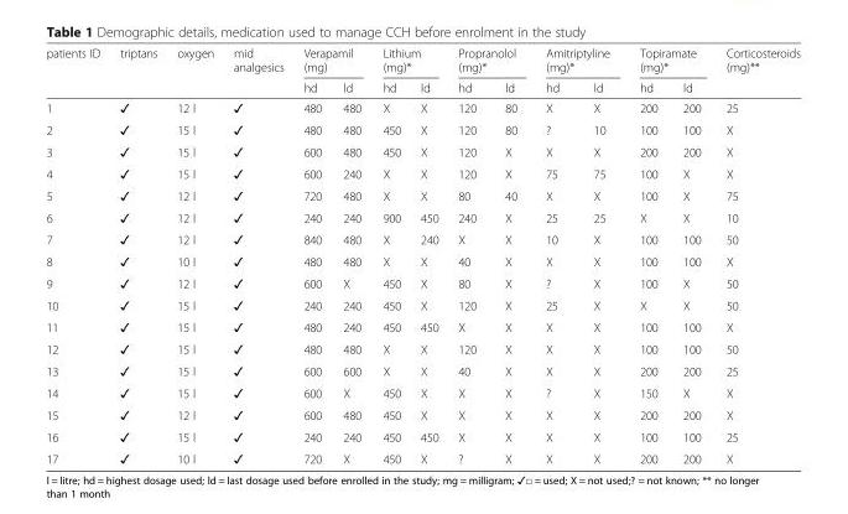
<table><thead><tr><td rowspan="2">patients ID</td><td rowspan="2">triptans</td><td rowspan="2">oxygen</td><td rowspan="2">mid analgesics</td><td colspan="2">Verapamil (mg)</td><td colspan="2">Lithium (mg)*</td><td colspan="2">Propranolol (mg)*</td><td colspan="2">Amitriptyline (mg)*</td><td colspan="2">Topiramate (mg)*</td><td rowspan="2">Corticosteroids (mg)**</td></tr><tr><td>hd</td><td>ld</td><td>hd</td><td>ld</td><td>hd</td><td>ld</td><td>hd</td><td>ld</td><td>hd</td><td>ld</td></tr></thead><tbody><tr><td>1</td><td>✓</td><td>12 l</td><td>✓</td><td>480</td><td>480</td><td>X</td><td>X</td><td>120</td><td>80</td><td>X</td><td>X</td><td>200</td><td>200</td><td>25</td></tr><tr><td>2</td><td>✓</td><td>15 l</td><td>✓</td><td>480</td><td>480</td><td>450</td><td>X</td><td>120</td><td>80</td><td>?</td><td>10</td><td>100</td><td>100</td><td>X</td></tr><tr><td>3</td><td>✓</td><td>15 l</td><td>✓</td><td>600</td><td>480</td><td>450</td><td>X</td><td>120</td><td>X</td><td>X</td><td>X</td><td>200</td><td>200</td><td>X</td></tr><tr><td>4</td><td>✓</td><td>15 l</td><td>✓</td><td>600</td><td>240</td><td>X</td><td>X</td><td>120</td><td>X</td><td>75</td><td>75</td><td>100</td><td>X</td><td>X</td></tr><tr><td>5</td><td>✓</td><td>12 l</td><td>✓</td><td>720</td><td>480</td><td>X</td><td>X</td><td>80</td><td>40</td><td>X</td><td>X</td><td>100</td><td>X</td><td>75</td></tr><tr><td>6</td><td>✓</td><td>12 l</td><td>✓</td><td>240</td><td>240</td><td>900</td><td>450</td><td>240</td><td>X</td><td>25</td><td>25</td><td>X</td><td>X</td><td>10</td></tr><tr><td>7</td><td>✓</td><td>12 l</td><td>✓</td><td>840</td><td>480</td><td>X</td><td>240</td><td>X</td><td>X</td><td>10</td><td>X</td><td>100</td><td>100</td><td>50</td></tr><tr><td>8</td><td>✓</td><td>10 l</td><td>✓</td><td>480</td><td>480</td><td>X</td><td>X</td><td>40</td><td>X</td><td>X</td><td>X</td><td>100</td><td>100</td><td>X</td></tr><tr><td>9</td><td>✓</td><td>12 l</td><td>✓</td><td>600</td><td>X</td><td>450</td><td>X</td><td>80</td><td>X</td><td>?</td><td>X</td><td>100</td><td>X</td><td>50</td></tr><tr><td>10</td><td>✓</td><td>15 l</td><td>✓</td><td>240</td><td>240</td><td>450</td><td>X</td><td>120</td><td>X</td><td>25</td><td>X</td><td>X</td><td>X</td><td>50</td></tr><tr><td>11</td><td>✓</td><td>15 l</td><td>✓</td><td>480</td><td>240</td><td>450</td><td>450</td><td>X</td><td>X</td><td>X</td><td>X</td><td>100</td><td>100</td><td>X</td></tr><tr><td>12</td><td>✓</td><td>15 l</td><td>✓</td><td>480</td><td>480</td><td>X</td><td>X</td><td>120</td><td>X</td><td>X</td><td>X</td><td>100</td><td>100</td><td>50</td></tr><tr><td>13</td><td>✓</td><td>15 l</td><td>✓</td><td>600</td><td>600</td><td>X</td><td>X</td><td>40</td><td>X</td><td>X</td><td>X</td><td>200</td><td>200</td><td>25</td></tr><tr><td>14</td><td>✓</td><td>15 l</td><td>✓</td><td>600</td><td>X</td><td>450</td><td>X</td><td>X</td><td>X</td><td>?</td><td>X</td><td>150</td><td>X</td><td>X</td></tr><tr><td>15</td><td>✓</td><td>12 l</td><td>✓</td><td>600</td><td>480</td><td>450</td><td>X</td><td>X</td><td>X</td><td>X</td><td>X</td><td>200</td><td>200</td><td>X</td></tr><tr><td>16</td><td>✓</td><td>15 l</td><td>✓</td><td>240</td><td>240</td><td>450</td><td>450</td><td>X</td><td>X</td><td>X</td><td>X</td><td>100</td><td>100</td><td>25</td></tr><tr><td>17</td><td>✓</td><td>10 l</td><td>✓</td><td>720</td><td>X</td><td>450</td><td>X</td><td>?</td><td>X</td><td>X</td><td>X</td><td>200</td><td>200</td><td>X</td></tr></tbody></table>